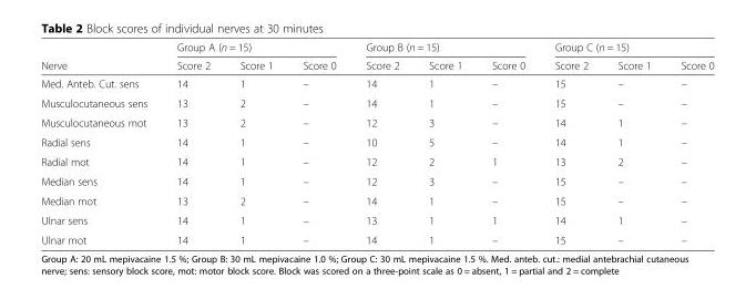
<table><thead><tr><td rowspan="2">Nerve</td><td colspan="3">Group A (n = 15)</td><td colspan="3">Group B (n = 15)</td><td colspan="3">Group C (n = 15)</td></tr><tr><td>Score 2</td><td>Score 1</td><td>Score 0</td><td>Score 2</td><td>Score 1</td><td>Score 0</td><td>Score 2</td><td>Score 1</td><td>Score 0</td></tr></thead><tbody><tr><td>Med. Anteb. Cut. sens</td><td>14</td><td>1</td><td>–</td><td>14</td><td>1</td><td>–</td><td>15</td><td>–</td><td>–</td></tr><tr><td>Musculocutaneous sens</td><td>13</td><td>2</td><td>–</td><td>14</td><td>1</td><td>–</td><td>15</td><td>–</td><td>–</td></tr><tr><td>Musculocutaneous mot</td><td>13</td><td>2</td><td>–</td><td>12</td><td>3</td><td>–</td><td>14</td><td>1</td><td>–</td></tr><tr><td>Radial sens</td><td>14</td><td>1</td><td>–</td><td>10</td><td>5</td><td>–</td><td>14</td><td>1</td><td>–</td></tr><tr><td>Radial mot</td><td>14</td><td>1</td><td>–</td><td>12</td><td>2</td><td>1</td><td>13</td><td>2</td><td>–</td></tr><tr><td>Median sens</td><td>14</td><td>1</td><td>–</td><td>12</td><td>3</td><td>–</td><td>15</td><td>–</td><td>–</td></tr><tr><td>Median mot</td><td>13</td><td>2</td><td>–</td><td>14</td><td>1</td><td>–</td><td>15</td><td>–</td><td>–</td></tr><tr><td>Ulnar sens</td><td>14</td><td>1</td><td>–</td><td>13</td><td>1</td><td>1</td><td>14</td><td>1</td><td>–</td></tr><tr><td>Ulnar mot</td><td>14</td><td>1</td><td>–</td><td>14</td><td>1</td><td>–</td><td>15</td><td>–</td><td>–</td></tr></tbody></table>